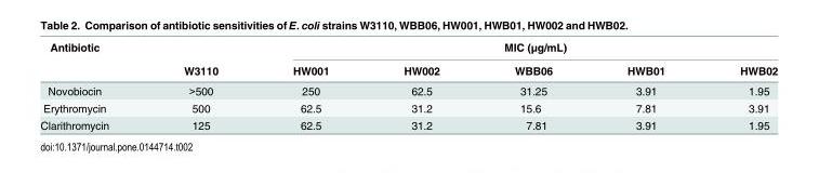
<table><thead><tr><td rowspan="2">Antibiotic</td><td rowspan="2">W3110</td><td colspan="5">MIC (μg/mL)</td></tr><tr><td>HW001</td><td>HW002</td><td>WBB06</td><td>HWB01</td><td>HWB02</td></tr></thead><tbody><tr><td>Novobiocin</td><td>&gt;500</td><td>250</td><td>62.5</td><td>31.25</td><td>3.91</td><td>1.95</td></tr><tr><td>Erythromycin</td><td>500</td><td>62.5</td><td>31.2</td><td>15.6</td><td>7.81</td><td>3.91</td></tr><tr><td>Clarithromycin</td><td>125</td><td>62.5</td><td>31.2</td><td>7.81</td><td>3.91</td><td>1.95</td></tr></tbody></table>